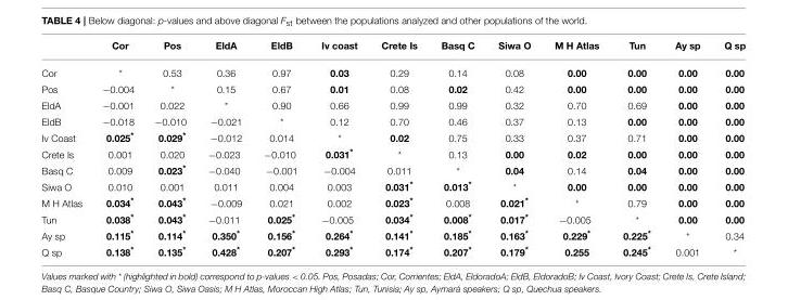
<table><thead><tr><td></td><td>Cor</td><td>Pos</td><td>EldA</td><td>EldB</td><td>Iv coast</td><td>Crete Is</td><td>Basq C</td><td>Siwa O</td><td>M H Atlas</td><td>Tun</td><td>Ay sp</td><td>Q sp</td></tr></thead><tbody><tr><td>Cor</td><td>*</td><td>0.53</td><td>0.36</td><td>0.97</td><td>0.03</td><td>0.29</td><td>0.14</td><td>0.08</td><td>0.00</td><td>0.00</td><td>0.00</td><td>0.00</td></tr><tr><td>Pos</td><td>−0.004</td><td>*</td><td>0.15</td><td>0.67</td><td>0.01</td><td>0.08</td><td>0.02</td><td>0.42</td><td>0.00</td><td>0.00</td><td>0.00</td><td>0.00</td></tr><tr><td>EldA</td><td>−0.001</td><td>0.022</td><td>*</td><td>0.90</td><td>0.66</td><td>0.99</td><td>0.99</td><td>0.32</td><td>0.70</td><td>0.69</td><td>0.00</td><td>0.00</td></tr><tr><td>EldB</td><td>−0.018</td><td>−0.010</td><td>−0.021</td><td>*</td><td>0.12</td><td>0.70</td><td>0.46</td><td>0.37</td><td>0.13</td><td>0.00</td><td>0.00</td><td>0.00</td></tr><tr><td>Iv Coast</td><td>0.025*</td><td>0.029*</td><td>−0.012</td><td>0.014</td><td>*</td><td>0.02</td><td>0.75</td><td>0.33</td><td>0.37</td><td>0.71</td><td>0.00</td><td>0.00</td></tr><tr><td>Crete Is</td><td>0.001</td><td>0.020</td><td>−0.023</td><td>−0.010</td><td>0.031*</td><td>*</td><td>0.13</td><td>0.00</td><td>0.02</td><td>0.00</td><td>0.00</td><td>0.00</td></tr><tr><td>Basq C</td><td>0.009</td><td>0.023*</td><td>−0.040</td><td>−0.001</td><td>−0.004</td><td>0.011</td><td>*</td><td>0.04</td><td>0.14</td><td>0.04</td><td>0.00</td><td>0.00</td></tr><tr><td>Siwa O</td><td>0.010</td><td>0.001</td><td>0.011</td><td>0.004</td><td>0.003</td><td>0.031*</td><td>0.013*</td><td>*</td><td>0.00</td><td>0.00</td><td>0.00</td><td>0.00</td></tr><tr><td>M H Atlas</td><td>0.034*</td><td>0.043*</td><td>−0.009</td><td>0.021</td><td>0.002</td><td>0.023*</td><td>0.008</td><td>0.021*</td><td>*</td><td>0.79</td><td>0.00</td><td>0.00</td></tr><tr><td>Tun</td><td>0.038*</td><td>0.043*</td><td>−0.011</td><td>0.025*</td><td>−0.005</td><td>0.034*</td><td>0.008*</td><td>0.017*</td><td>−0.005</td><td>*</td><td>0.00</td><td>0.00</td></tr><tr><td>Ay sp</td><td>0.115*</td><td>0.114*</td><td>0.350*</td><td>0.156*</td><td>0.264*</td><td>0.141*</td><td>0.185*</td><td>0.163*</td><td>0.229*</td><td>0.225*</td><td>*</td><td>0.34</td></tr><tr><td>Q sp</td><td>0.138*</td><td>0.135*</td><td>0.428*</td><td>0.207*</td><td>0.293*</td><td>0.174*</td><td>0.207*</td><td>0.179*</td><td>0.255</td><td>0.245*</td><td>0.001</td><td>*</td></tr></tbody></table>